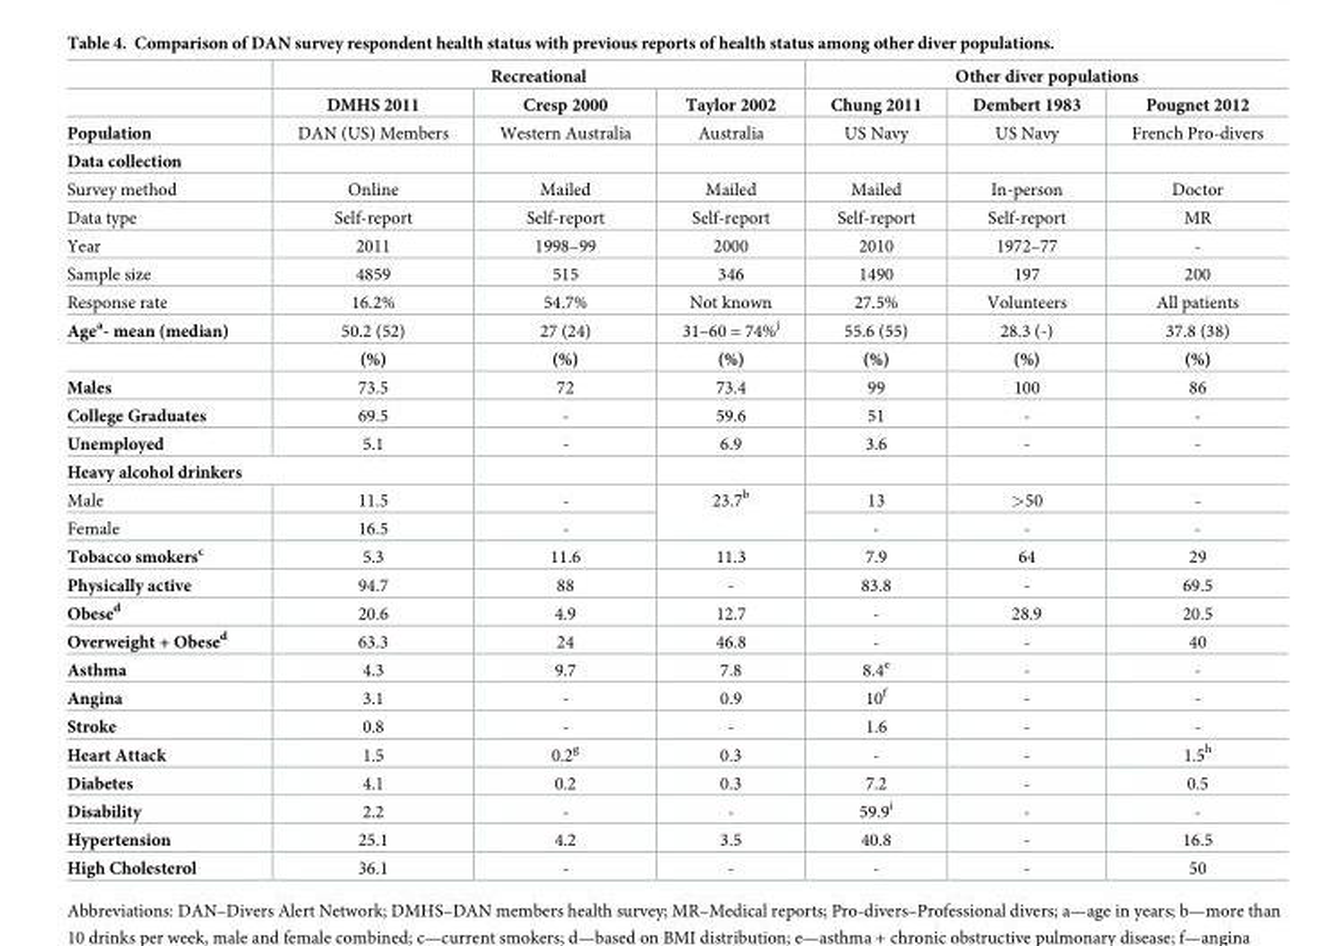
<table><thead><tr><td rowspan="2"></td><td colspan="3">Recreational</td><td colspan="3">Other diver populations</td></tr><tr><td>DMHS 2011</td><td>Cresp 2000</td><td>Taylor 2002</td><td>Chung 2011</td><td>Dembert 1983</td><td>Pougnet 2012</td></tr></thead><tbody><tr><td>Population</td><td>DAN (US) Members</td><td>Western Australia</td><td>Australia</td><td>US Navy</td><td>US Navy</td><td>French Pro-divers</td></tr><tr><td colspan="7">Data collection</td></tr><tr><td>Survey method</td><td>Online</td><td>Mailed</td><td>Mailed</td><td>Mailed</td><td>In-person</td><td>Doctor</td></tr><tr><td>Data type</td><td>Self-report</td><td>Self-report</td><td>Self-report</td><td>Self-report</td><td>Self-report</td><td>MR</td></tr><tr><td>Year</td><td>2011</td><td>1998–99</td><td>2000</td><td>2010</td><td>1972–77</td><td>-</td></tr><tr><td>Sample size</td><td>4859</td><td>515</td><td>346</td><td>1490</td><td>197</td><td>200</td></tr><tr><td>Response rate</td><td>16.2%</td><td>54.7%</td><td>Not known</td><td>27.5%</td><td>Volunteers</td><td>All patients</td></tr><tr><td rowspan="2">Age<sup>a</sup>- mean (median)</td><td>50.2 (52)</td><td>27 (24)</td><td>31–60 = 74%<sup>j</sup></td><td>55.6 (55)</td><td>28.3 (-)</td><td>37.8 (38)</td></tr><tr><td>(%)</td><td>(%)</td><td>(%)</td><td>(%)</td><td>(%)</td><td>(%)</td></tr><tr><td>Males</td><td>73.5</td><td>72</td><td>73.4</td><td>99</td><td>100</td><td>86</td></tr><tr><td>College Graduates</td><td>69.5</td><td>-</td><td>59.6</td><td>51</td><td>-</td><td>-</td></tr><tr><td>Unemployed</td><td>5.1</td><td>-</td><td>6.9</td><td>3.6</td><td>-</td><td>-</td></tr><tr><td colspan="7">Heavy alcohol drinkers</td></tr><tr><td>Male</td><td>11.5</td><td>-</td><td rowspan="2">23.7<sup>b</sup></td><td>13</td><td>&gt;50</td><td>-</td></tr><tr><td>Female</td><td>16.5</td><td>-</td><td>-</td><td>-</td><td>-</td></tr><tr><td>Tobacco smokers<sup>c</sup></td><td>5.3</td><td>11.6</td><td>11.3</td><td>7.9</td><td>64</td><td>29</td></tr><tr><td>Physically active</td><td>94.7</td><td>88</td><td>-</td><td>83.8</td><td>-</td><td>69.5</td></tr><tr><td>Obese<sup>d</sup></td><td>20.6</td><td>4.9</td><td>12.7</td><td>-</td><td>28.9</td><td>20.5</td></tr><tr><td>Overweight + Obese<sup>d</sup></td><td>63.3</td><td>24</td><td>46.8</td><td>-</td><td>-</td><td>40</td></tr><tr><td>Asthma</td><td>4.3</td><td>9.7</td><td>7.8</td><td>8.4<sup>e</sup></td><td>-</td><td>-</td></tr><tr><td>Angina</td><td>3.1</td><td>-</td><td>0.9</td><td>10<sup>f</sup></td><td>-</td><td>-</td></tr><tr><td>Stroke</td><td>0.8</td><td>-</td><td>-</td><td>1.6</td><td>-</td><td>-</td></tr><tr><td>Heart Attack</td><td>1.5</td><td>0.2<sup>g</sup></td><td>0.3</td><td>-</td><td>-</td><td>1.5<sup>h</sup></td></tr><tr><td>Diabetes</td><td>4.1</td><td>0.2</td><td>0.3</td><td>7.2</td><td>-</td><td>0.5</td></tr><tr><td>Disability</td><td>2.2</td><td>-</td><td>-</td><td>59.9<sup>i</sup></td><td>-</td><td>-</td></tr><tr><td>Hypertension</td><td>25.1</td><td>4.2</td><td>3.5</td><td>40.8</td><td>-</td><td>16.5</td></tr><tr><td>High Cholesterol</td><td>36.1</td><td>-</td><td>-</td><td>-</td><td>-</td><td>50</td></tr></tbody></table>